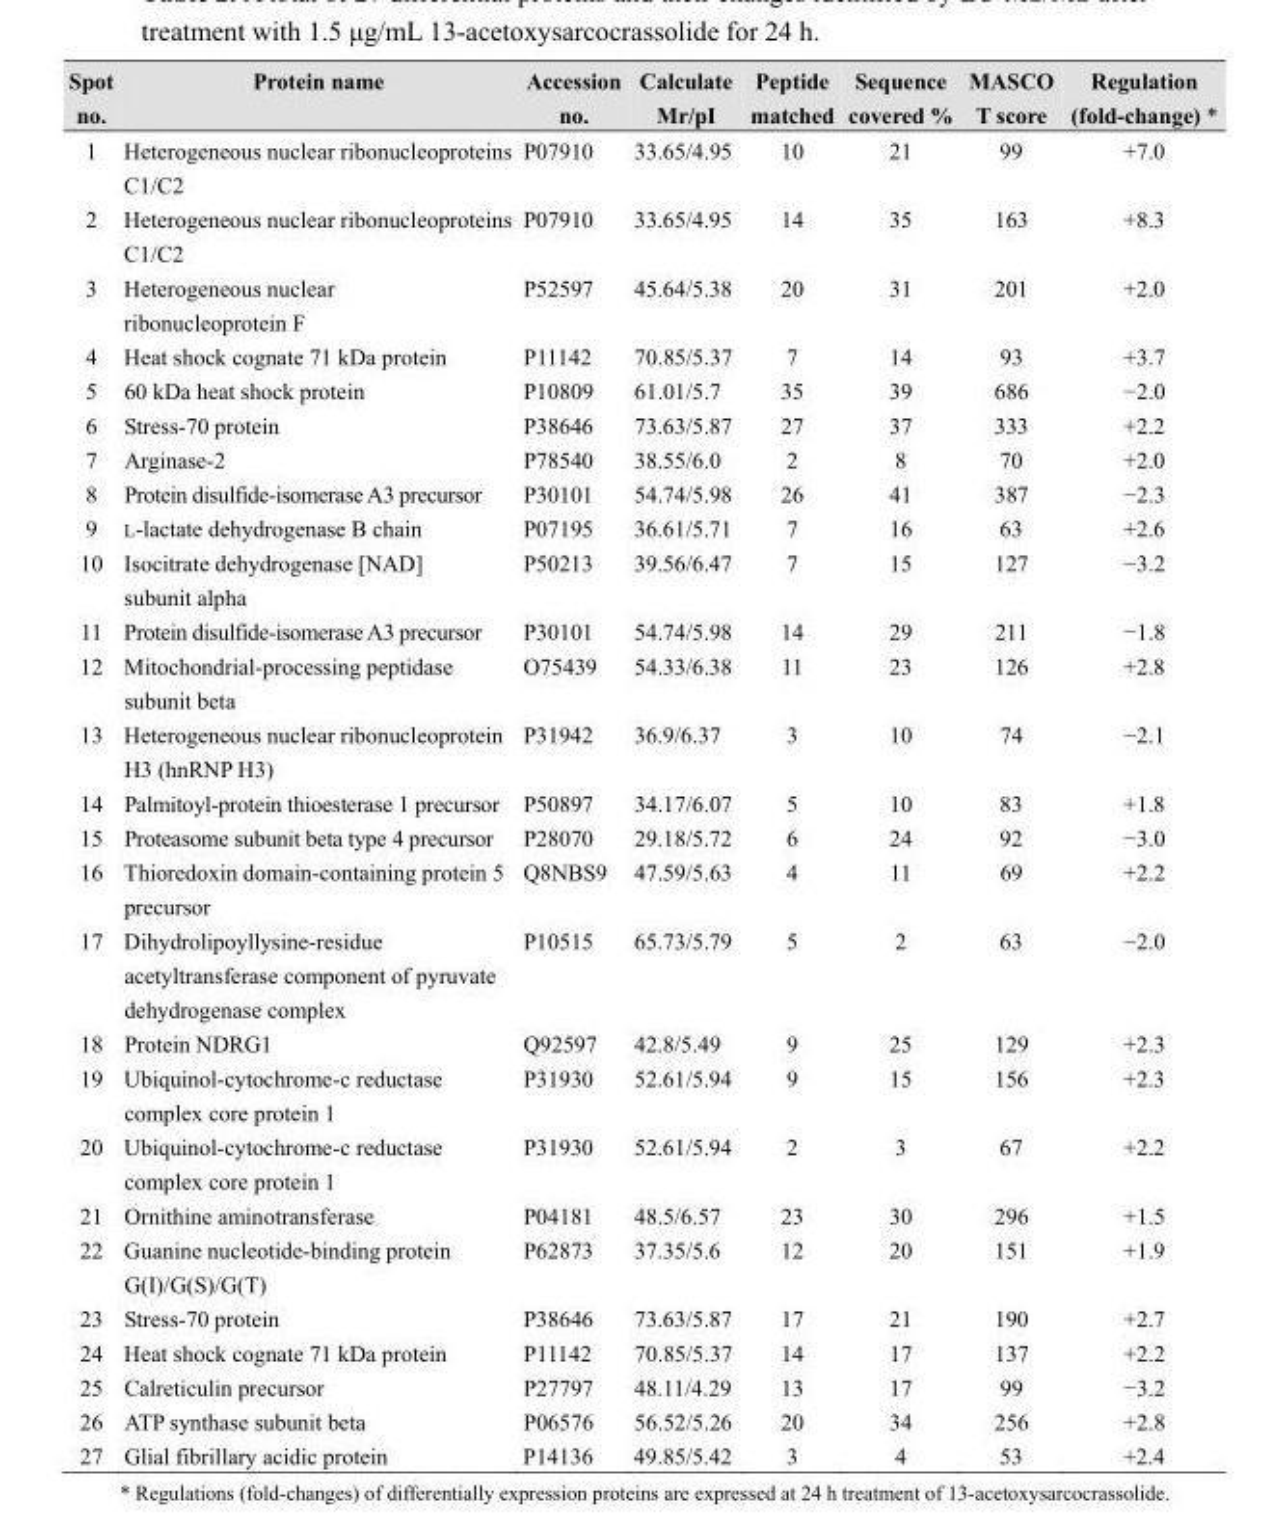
<table><thead><tr><td>Spot no.</td><td>Protein name</td><td>Accession no.</td><td>Calculate Mr/pI</td><td>Peptide matched</td><td>Sequence covered %</td><td>MASCO T score</td><td>Regulation (fold-change) *</td></tr></thead><tbody><tr><td>1</td><td>Heterogeneous nuclear ribonucleoproteins C1/C2</td><td>P07910</td><td>33.65/4.95</td><td>10</td><td>21</td><td>99</td><td>+7.0</td></tr><tr><td>2</td><td>Heterogeneous nuclear ribonucleoproteins C1/C2</td><td>P07910</td><td>33.65/4.95</td><td>14</td><td>35</td><td>163</td><td>+8.3</td></tr><tr><td>3</td><td>Heterogeneous nuclear ribonucleoprotein F</td><td>P52597</td><td>45.64/5.38</td><td>20</td><td>31</td><td>201</td><td>+2.0</td></tr><tr><td>4</td><td>Heat shock cognate 71 kDa protein</td><td>P11142</td><td>70.85/5.37</td><td>7</td><td>14</td><td>93</td><td>+3.7</td></tr><tr><td>5</td><td>60 kDa heat shock protein</td><td>P10809</td><td>61.01/5.7</td><td>35</td><td>39</td><td>686</td><td>−2.0</td></tr><tr><td>6</td><td>Stress-70 protein</td><td>P38646</td><td>73.63/5.87</td><td>27</td><td>37</td><td>333</td><td>+2.2</td></tr><tr><td>7</td><td>Arginase-2</td><td>P78540</td><td>38.55/6.0</td><td>2</td><td>8</td><td>70</td><td>+2.0</td></tr><tr><td>8</td><td>Protein disulfide-isomerase A3 precursor</td><td>P30101</td><td>54.74/5.98</td><td>26</td><td>41</td><td>387</td><td>−2.3</td></tr><tr><td>9</td><td>L-lactate dehydrogenase B chain</td><td>P07195</td><td>36.61/5.71</td><td>7</td><td>16</td><td>63</td><td>+2.6</td></tr><tr><td>10</td><td>Isocitrate dehydrogenase [NAD] subunit alpha</td><td>P50213</td><td>39.56/6.47</td><td>7</td><td>15</td><td>127</td><td>−3.2</td></tr><tr><td>11</td><td>Protein disulfide-isomerase A3 precursor</td><td>P30101</td><td>54.74/5.98</td><td>14</td><td>29</td><td>211</td><td>−1.8</td></tr><tr><td>12</td><td>Mitochondrial-processing peptidase subunit beta</td><td>O75439</td><td>54.33/6.38</td><td>11</td><td>23</td><td>126</td><td>+2.8</td></tr><tr><td>13</td><td>Heterogeneous nuclear ribonucleoprotein H3 (hnRNP H3)</td><td>P31942</td><td>36.9/6.37</td><td>3</td><td>10</td><td>74</td><td>−2.1</td></tr><tr><td>14</td><td>Palmitoyl-protein thioesterase 1 precursor</td><td>P50897</td><td>34.17/6.07</td><td>5</td><td>10</td><td>83</td><td>+1.8</td></tr><tr><td>15</td><td>Proteasome subunit beta type 4 precursor</td><td>P28070</td><td>29.18/5.72</td><td>6</td><td>24</td><td>92</td><td>−3.0</td></tr><tr><td>16</td><td>Thioredoxin domain-containing protein 5 precursor</td><td>Q8NBS9</td><td>47.59/5.63</td><td>4</td><td>11</td><td>69</td><td>+2.2</td></tr><tr><td>17</td><td>Dihydrolipoyllysine-residue acetyltransferase component of pyruvate dehydrogenase complex</td><td>P10515</td><td>65.73/5.79</td><td>5</td><td>2</td><td>63</td><td>−2.0</td></tr><tr><td>18</td><td>Protein NDRG1</td><td>Q92597</td><td>42.8/5.49</td><td>9</td><td>25</td><td>129</td><td>+2.3</td></tr><tr><td>19</td><td>Ubiquinol-cytochrome-c reductase complex core protein 1</td><td>P31930</td><td>52.61/5.94</td><td>9</td><td>15</td><td>156</td><td>+2.3</td></tr><tr><td>20</td><td>Ubiquinol-cytochrome-c reductase complex core protein 1</td><td>P31930</td><td>52.61/5.94</td><td>2</td><td>3</td><td>67</td><td>+2.2</td></tr><tr><td>21</td><td>Ornithine aminotransferase</td><td>P04181</td><td>48.5/6.57</td><td>23</td><td>30</td><td>296</td><td>+1.5</td></tr><tr><td>22</td><td>Guanine nucleotide-binding protein G(I)/G(S)/G(T)</td><td>P62873</td><td>37.35/5.6</td><td>12</td><td>20</td><td>151</td><td>+1.9</td></tr><tr><td>23</td><td>Stress-70 protein</td><td>P38646</td><td>73.63/5.87</td><td>17</td><td>21</td><td>190</td><td>+2.7</td></tr><tr><td>24</td><td>Heat shock cognate 71 kDa protein</td><td>P11142</td><td>70.85/5.37</td><td>14</td><td>17</td><td>137</td><td>+2.2</td></tr><tr><td>25</td><td>Calreticulin precursor</td><td>P27797</td><td>48.11/4.29</td><td>13</td><td>17</td><td>99</td><td>−3.2</td></tr><tr><td>26</td><td>ATP synthase subunit beta</td><td>P06576</td><td>56.52/5.26</td><td>20</td><td>34</td><td>256</td><td>+2.8</td></tr><tr><td>27</td><td>Glial fibrillary acidic protein</td><td>P14136</td><td>49.85/5.42</td><td>3</td><td>4</td><td>53</td><td>+2.4</td></tr></tbody></table>